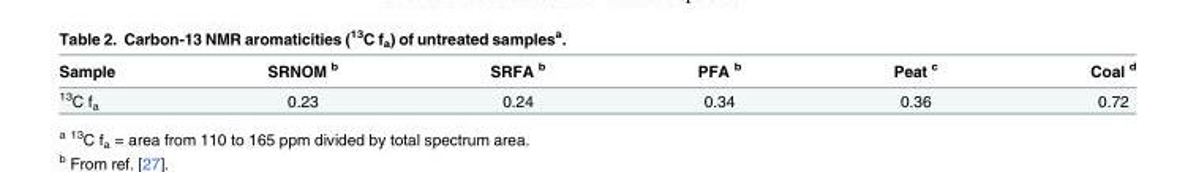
<table><thead><tr><td>Sample</td><td>SRNOM <sup>b</sup></td><td>SRFA <sup>b</sup></td><td>PFA <sup>b</sup></td><td>Peat <sup>c</sup></td><td>Coal <sup>d</sup></td></tr></thead><tbody><tr><td><sup>13</sup>C f<sub>a</sub></td><td>0.23</td><td>0.24</td><td>0.34</td><td>0.36</td><td>0.72</td></tr></tbody></table>